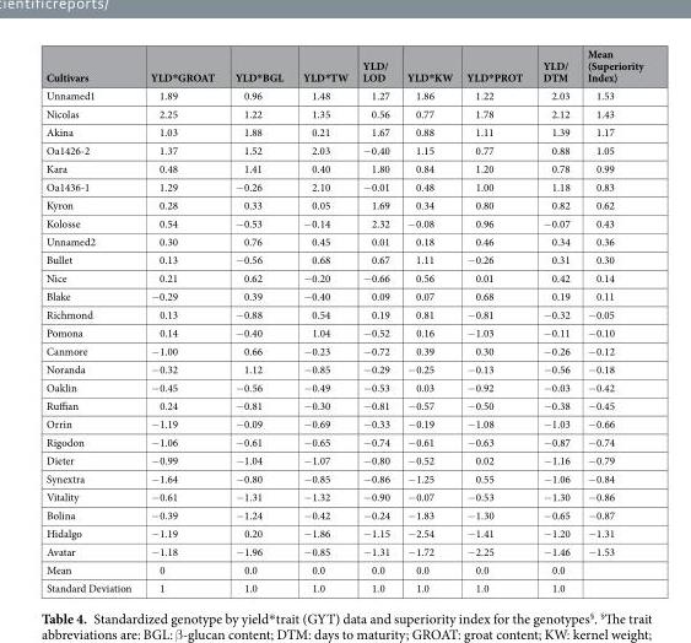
<table><thead><tr><td>Cultivars</td><td>YLD*GROAT</td><td>YLD*BGL</td><td>YLD*TW</td><td>YLD/ LOD</td><td>YLD*KW</td><td>YLD*PROT</td><td>YLD/ DTM</td><td>Mean (Superiority Index)</td></tr></thead><tbody><tr><td>Unnamed1</td><td>1.89</td><td>0.96</td><td>1.48</td><td>1.27</td><td>1.86</td><td>1.22</td><td>2.03</td><td>1.53</td></tr><tr><td>Nicolas</td><td>2.25</td><td>1.22</td><td>1.35</td><td>0.56</td><td>0.77</td><td>1.78</td><td>2.12</td><td>1.43</td></tr><tr><td>Akina</td><td>1.03</td><td>1.88</td><td>0.21</td><td>1.67</td><td>0.88</td><td>1.11</td><td>1.39</td><td>1.17</td></tr><tr><td>Oa1426-2</td><td>1.37</td><td>1.52</td><td>2.03</td><td>−0.40</td><td>1.15</td><td>0.77</td><td>0.88</td><td>1.05</td></tr><tr><td>Kara</td><td>0.48</td><td>1.41</td><td>0.40</td><td>1.80</td><td>0.84</td><td>1.20</td><td>0.78</td><td>0.99</td></tr><tr><td>Oa1436-1</td><td>1.29</td><td>−0.26</td><td>2.10</td><td>−0.01</td><td>0.48</td><td>1.00</td><td>1.18</td><td>0.83</td></tr><tr><td>Kyron</td><td>0.28</td><td>0.33</td><td>0.05</td><td>1.69</td><td>0.34</td><td>0.80</td><td>0.82</td><td>0.62</td></tr><tr><td>Kolosse</td><td>0.54</td><td>−0.53</td><td>−0.14</td><td>2.32</td><td>−0.08</td><td>0.96</td><td>−0.07</td><td>0.43</td></tr><tr><td>Unnamed2</td><td>0.30</td><td>0.76</td><td>0.45</td><td>0.01</td><td>0.18</td><td>0.46</td><td>0.34</td><td>0.36</td></tr><tr><td>Bullet</td><td>0.13</td><td>−0.56</td><td>0.68</td><td>0.67</td><td>1.11</td><td>−0.26</td><td>0.31</td><td>0.30</td></tr><tr><td>Nice</td><td>0.21</td><td>0.62</td><td>−0.20</td><td>−0.66</td><td>0.56</td><td>0.01</td><td>0.42</td><td>0.14</td></tr><tr><td>Blake</td><td>−0.29</td><td>0.39</td><td>−0.40</td><td>0.09</td><td>0.07</td><td>0.68</td><td>0.19</td><td>0.11</td></tr><tr><td>Richmond</td><td>0.13</td><td>−0.88</td><td>0.54</td><td>0.19</td><td>0.81</td><td>−0.81</td><td>−0.32</td><td>−0.05</td></tr><tr><td>Pomona</td><td>0.14</td><td>−0.40</td><td>1.04</td><td>−0.52</td><td>0.16</td><td>−1.03</td><td>−0.11</td><td>−0.10</td></tr><tr><td>Canmore</td><td>−1.00</td><td>0.66</td><td>−0.23</td><td>−0.72</td><td>0.39</td><td>0.30</td><td>−0.26</td><td>−0.12</td></tr><tr><td>Noranda</td><td>−0.32</td><td>1.12</td><td>−0.85</td><td>−0.29</td><td>−0.25</td><td>−0.13</td><td>−0.56</td><td>−0.18</td></tr><tr><td>Oaklin</td><td>−0.45</td><td>−0.56</td><td>−0.49</td><td>−0.53</td><td>0.03</td><td>−0.92</td><td>−0.03</td><td>−0.42</td></tr><tr><td>Ruffian</td><td>0.24</td><td>−0.81</td><td>−0.30</td><td>−0.81</td><td>−0.57</td><td>−0.50</td><td>−0.38</td><td>−0.45</td></tr><tr><td>Orrin</td><td>−1.19</td><td>−0.09</td><td>−0.69</td><td>−0.33</td><td>−0.19</td><td>−1.08</td><td>−1.03</td><td>−0.66</td></tr><tr><td>Rigodon</td><td>−1.06</td><td>−0.61</td><td>−0.65</td><td>−0.74</td><td>−0.61</td><td>−0.63</td><td>−0.87</td><td>−0.74</td></tr><tr><td>Dieter</td><td>−0.99</td><td>−1.04</td><td>−1.07</td><td>−0.80</td><td>−0.52</td><td>0.02</td><td>−1.16</td><td>−0.79</td></tr><tr><td>Synextra</td><td>−1.64</td><td>−0.80</td><td>−0.85</td><td>−0.86</td><td>−1.25</td><td>0.55</td><td>−1.06</td><td>−0.84</td></tr><tr><td>Vitality</td><td>−0.61</td><td>−1.31</td><td>−1.32</td><td>−0.90</td><td>−0.07</td><td>−0.53</td><td>−1.30</td><td>−0.86</td></tr><tr><td>Bolina</td><td>−0.39</td><td>−1.24</td><td>−0.42</td><td>−0.24</td><td>−1.83</td><td>−1.30</td><td>−0.65</td><td>−0.87</td></tr><tr><td>Hidalgo</td><td>−1.19</td><td>0.20</td><td>−1.86</td><td>−1.15</td><td>−2.54</td><td>−1.41</td><td>−1.20</td><td>−1.31</td></tr><tr><td>Avatar</td><td>−1.18</td><td>−1.96</td><td>−0.85</td><td>−1.31</td><td>−1.72</td><td>−2.25</td><td>−1.46</td><td>−1.53</td></tr><tr><td>Mean</td><td>0</td><td>0.0</td><td>0.0</td><td>0.0</td><td>0.0</td><td>0.0</td><td>0.0</td><td></td></tr><tr><td>Standard Deviation</td><td>1</td><td>1.0</td><td>1.0</td><td>1.0</td><td>1.0</td><td>1.0</td><td>1.0</td><td></td></tr></tbody></table>